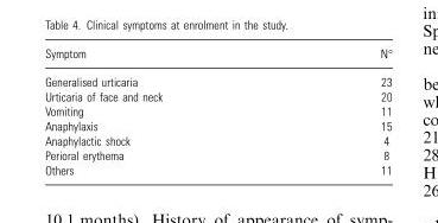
<table><thead><tr><td>Symptom</td><td>N°</td></tr></thead><tbody><tr><td>Generalised urticaria</td><td>23</td></tr><tr><td>Urticaria of face and neck</td><td>20</td></tr><tr><td>Vomiting</td><td>11</td></tr><tr><td>Anaphylaxis</td><td>15</td></tr><tr><td>Anaphylactic shock</td><td>4</td></tr><tr><td>Perioral erythema</td><td>8</td></tr><tr><td>Others</td><td>11</td></tr></tbody></table>